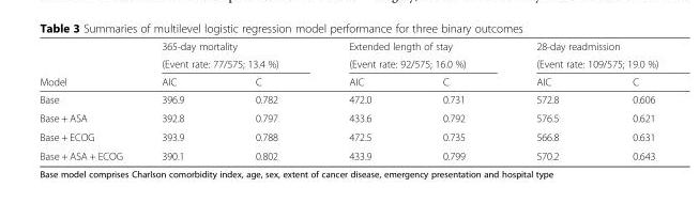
<table><thead><tr><td rowspan="3">Model</td><td rowspan="2" colspan="2">365-day mortality (Event rate: 77/575; 13.4 %)</td><td rowspan="2" colspan="2">Extended length of stay (Event rate: 92/575; 16.0 %)</td><td rowspan="2" colspan="2">28-day readmission (Event rate: 109/575; 19.0 %)</td></tr><tr></tr><tr><td>AIC</td><td>C</td><td>AIC</td><td>C</td><td>AIC</td><td>C</td></tr></thead><tbody><tr><td>Base</td><td>396.9</td><td>0.782</td><td>472.0</td><td>0.731</td><td>572.8</td><td>0.606</td></tr><tr><td>Base + ASA</td><td>392.8</td><td>0.797</td><td>433.6</td><td>0.792</td><td>576.5</td><td>0.621</td></tr><tr><td>Base + ECOG</td><td>393.9</td><td>0.788</td><td>472.5</td><td>0.735</td><td>566.8</td><td>0.631</td></tr><tr><td>Base + ASA + ECOG</td><td>390.1</td><td>0.802</td><td>433.9</td><td>0.799</td><td>570.2</td><td>0.643</td></tr></tbody></table>